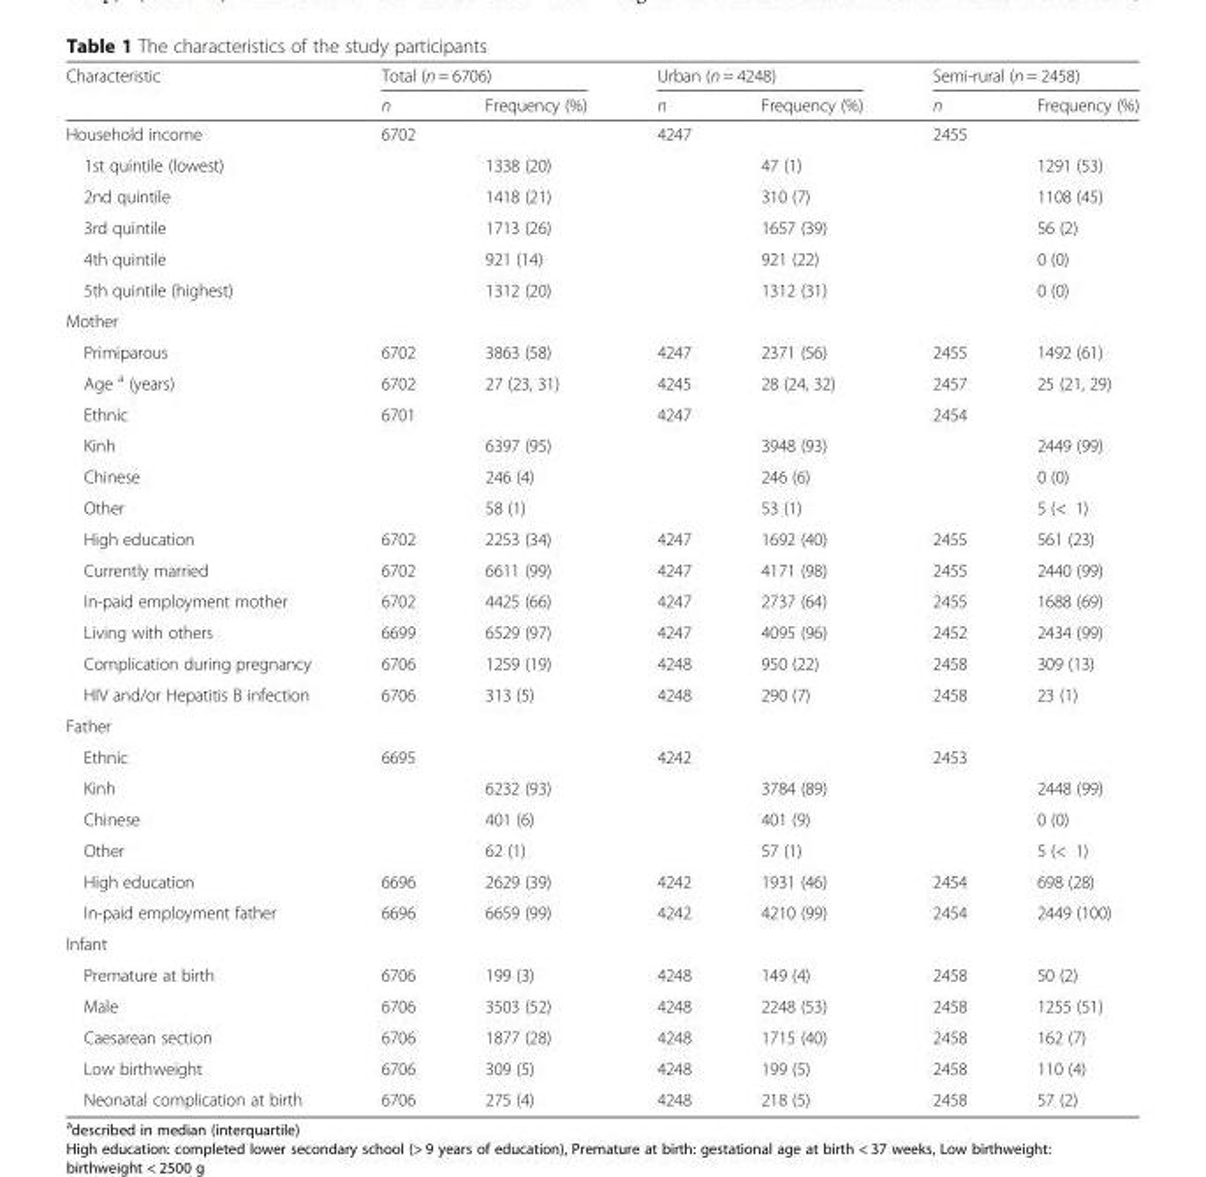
<table><thead><tr><td rowspan="2">Characteristic</td><td colspan="2">Total (n = 6706)</td><td colspan="2">Urban (n = 4248)</td><td colspan="2">Semi-rural (n = 2458)</td></tr><tr><td>n</td><td>Frequency (%)</td><td>n</td><td>Frequency (%)</td><td>n</td><td>Frequency (%)</td></tr></thead><tbody><tr><td>Household income</td><td>6702</td><td></td><td>4247</td><td></td><td>2455</td><td></td></tr><tr><td>1st quintile (lowest)</td><td></td><td>1338 (20)</td><td></td><td>47 (1)</td><td></td><td>1291 (53)</td></tr><tr><td>2nd quintile</td><td></td><td>1418 (21)</td><td></td><td>310 (7)</td><td></td><td>1108 (45)</td></tr><tr><td>3rd quintile</td><td></td><td>1713 (26)</td><td></td><td>1657 (39)</td><td></td><td>56 (2)</td></tr><tr><td>4th quintile</td><td></td><td>921 (14)</td><td></td><td>921 (22)</td><td></td><td>0 (0)</td></tr><tr><td>5th quintile (highest)</td><td></td><td>1312 (20)</td><td></td><td>1312 (31)</td><td></td><td>0 (0)</td></tr><tr><td colspan="7">Mother</td></tr><tr><td>Primiparous</td><td>6702</td><td>3863 (58)</td><td>4247</td><td>2371 (56)</td><td>2455</td><td>1492 (61)</td></tr><tr><td>Age <sup>a</sup> (years)</td><td>6702</td><td>27 (23, 31)</td><td>4245</td><td>28 (24, 32)</td><td>2457</td><td>25 (21, 29)</td></tr><tr><td>Ethnic</td><td>6701</td><td></td><td>4247</td><td></td><td>2454</td><td></td></tr><tr><td>Kinh</td><td></td><td>6397 (95)</td><td></td><td>3948 (93)</td><td></td><td>2449 (99)</td></tr><tr><td>Chinese</td><td></td><td>246 (4)</td><td></td><td>246 (6)</td><td></td><td>0 (0)</td></tr><tr><td>Other</td><td></td><td>58 (1)</td><td></td><td>53 (1)</td><td></td><td>5 (&lt; 1)</td></tr><tr><td>High education</td><td>6702</td><td>2253 (34)</td><td>4247</td><td>1692 (40)</td><td>2455</td><td>561 (23)</td></tr><tr><td>Currently married</td><td>6702</td><td>6611 (99)</td><td>4247</td><td>4171 (98)</td><td>2455</td><td>2440 (99)</td></tr><tr><td>In-paid employment mother</td><td>6702</td><td>4425 (66)</td><td>4247</td><td>2737 (64)</td><td>2455</td><td>1688 (69)</td></tr><tr><td>Living with others</td><td>6699</td><td>6529 (97)</td><td>4247</td><td>4095 (96)</td><td>2452</td><td>2434 (99)</td></tr><tr><td>Complication during pregnancy</td><td>6706</td><td>1259 (19)</td><td>4248</td><td>950 (22)</td><td>2458</td><td>309 (13)</td></tr><tr><td>HIV and/or Hepatitis B infection</td><td>6706</td><td>313 (5)</td><td>4248</td><td>290 (7)</td><td>2458</td><td>23 (1)</td></tr><tr><td colspan="7">Father</td></tr><tr><td>Ethnic</td><td>6695</td><td></td><td>4242</td><td></td><td>2453</td><td></td></tr><tr><td>Kinh</td><td></td><td>6232 (93)</td><td></td><td>3784 (89)</td><td></td><td>2448 (99)</td></tr><tr><td>Chinese</td><td></td><td>401 (6)</td><td></td><td>401 (9)</td><td></td><td>0 (0)</td></tr><tr><td>Other</td><td></td><td>62 (1)</td><td></td><td>57 (1)</td><td></td><td>5 (&lt; 1)</td></tr><tr><td>High education</td><td>6696</td><td>2629 (39)</td><td>4242</td><td>1931 (46)</td><td>2454</td><td>698 (28)</td></tr><tr><td>In-paid employment father</td><td>6696</td><td>6659 (99)</td><td>4242</td><td>4210 (99)</td><td>2454</td><td>2449 (100)</td></tr><tr><td colspan="7">Infant</td></tr><tr><td>Premature at birth</td><td>6706</td><td>199 (3)</td><td>4248</td><td>149 (4)</td><td>2458</td><td>50 (2)</td></tr><tr><td>Male</td><td>6706</td><td>3503 (52)</td><td>4248</td><td>2248 (53)</td><td>2458</td><td>1255 (51)</td></tr><tr><td>Caesarean section</td><td>6706</td><td>1877 (28)</td><td>4248</td><td>1715 (40)</td><td>2458</td><td>162 (7)</td></tr><tr><td>Low birthweight</td><td>6706</td><td>309 (5)</td><td>4248</td><td>199 (5)</td><td>2458</td><td>110 (4)</td></tr><tr><td>Neonatal complication at birth</td><td>6706</td><td>275 (4)</td><td>4248</td><td>218 (5)</td><td>2458</td><td>57 (2)</td></tr></tbody></table>